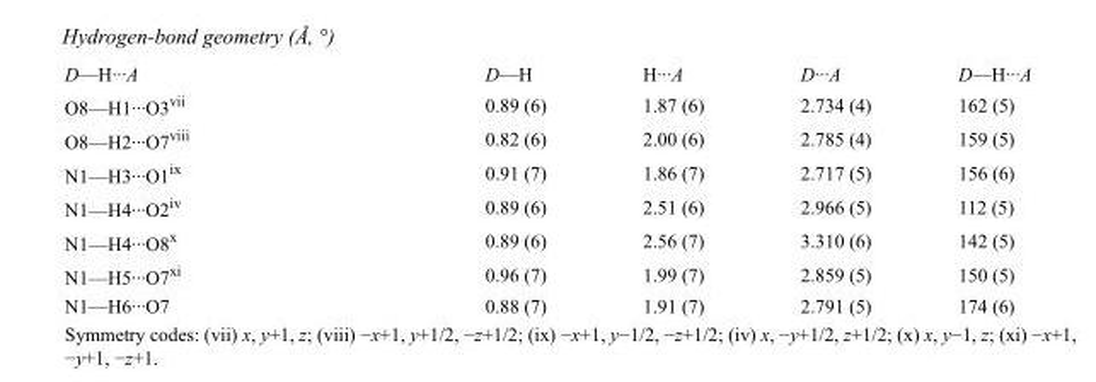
<table><tbody><tr><td>D—H···A</td><td>D—H</td><td>H···A</td><td>D···A</td><td>D—H···A</td></tr><tr><td>O8—H1···O3<sup>vii</sup></td><td>0.89 (6)</td><td>1.87 (6)</td><td>2.734 (4)</td><td>162 (5)</td></tr><tr><td>O8—H2···O7<sup>viii</sup></td><td>0.82 (6)</td><td>2.00 (6)</td><td>2.785 (4)</td><td>159 (5)</td></tr><tr><td>N1—H3···O1<sup>ix</sup></td><td>0.91 (7)</td><td>1.86 (7)</td><td>2.717 (5)</td><td>156 (6)</td></tr><tr><td>N1—H4···O2<sup>iv</sup></td><td>0.89 (6)</td><td>2.51 (6)</td><td>2.966 (5)</td><td>112 (5)</td></tr><tr><td>N1—H4···O8<sup>x</sup></td><td>0.89 (6)</td><td>2.56 (7)</td><td>3.310 (6)</td><td>142 (5)</td></tr><tr><td>N1—H5···O7<sup>xi</sup></td><td>0.96 (7)</td><td>1.99 (7)</td><td>2.859 (5)</td><td>150 (5)</td></tr><tr><td>N1—H6···O7</td><td>0.88 (7)</td><td>1.91 (7)</td><td>2.791 (5)</td><td>174 (6)</td></tr></tbody></table>